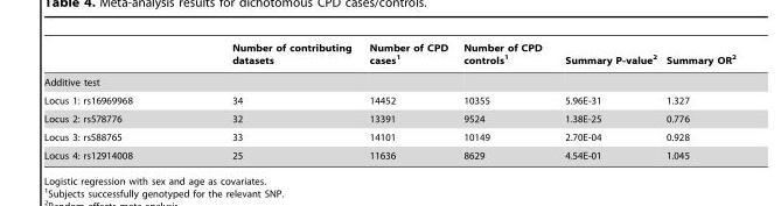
<table><thead><tr><td></td><td>Number of contributing datasets</td><td>Number of CPD cases<sup>1</sup></td><td>Number of CPD controls<sup>1</sup></td><td>Summary P-value<sup>2</sup></td><td>Summary OR<sup>2</sup></td></tr></thead><tbody><tr><td colspan="6">Additive test</td></tr><tr><td>Locus 1: rs16969968</td><td>34</td><td>14452</td><td>10355</td><td>5.96E-31</td><td>1.327</td></tr><tr><td>Locus 2: rs578776</td><td>32</td><td>13391</td><td>9524</td><td>1.38E-25</td><td>0.776</td></tr><tr><td>Locus 3: rs588765</td><td>33</td><td>14101</td><td>10149</td><td>2.70E-04</td><td>0.928</td></tr><tr><td>Locus 4: rs12914008</td><td>25</td><td>11636</td><td>8629</td><td>4.54E-01</td><td>1.045</td></tr></tbody></table>